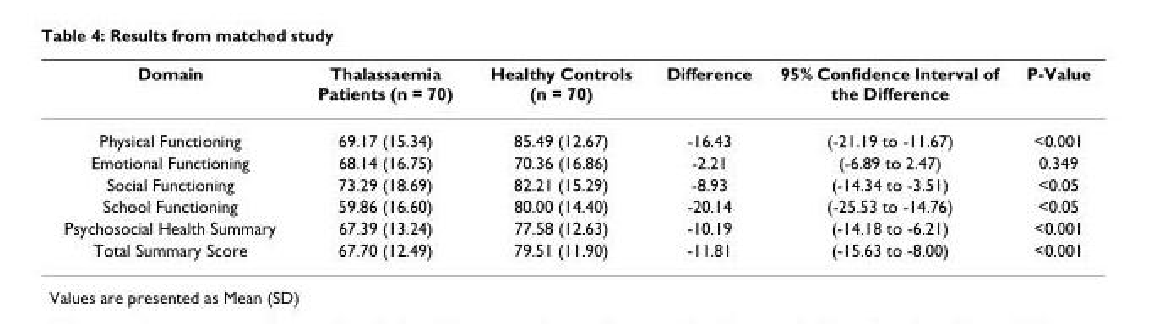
<table><thead><tr><td>Domain</td><td>Thalassaemia Patients (n = 70)</td><td>Healthy Controls (n = 70)</td><td>Difference</td><td>95% Confidence Interval of the Difference</td><td>P-Value</td></tr></thead><tbody><tr><td>Physical Functioning</td><td>69.17 (15.34)</td><td>85.49 (12.67)</td><td>-16.43</td><td>(-21.19 to -11.67)</td><td>&lt;0.001</td></tr><tr><td>Emotional Functioning</td><td>68.14 (16.75)</td><td>70.36 (16.86)</td><td>-2.21</td><td>(-6.89 to 2.47)</td><td>0.349</td></tr><tr><td>Social Functioning</td><td>73.29 (18.69)</td><td>82.21 (15.29)</td><td>-8.93</td><td>(-14.34 to -3.51)</td><td>&lt;0.05</td></tr><tr><td>School Functioning</td><td>59.86 (16.60)</td><td>80.00 (14.40)</td><td>-20.14</td><td>(-25.53 to -14.76)</td><td>&lt;0.05</td></tr><tr><td>Psychosocial Health Summary</td><td>67.39 (13.24)</td><td>77.58 (12.63)</td><td>-10.19</td><td>(-14.18 to -6.21)</td><td>&lt;0.001</td></tr><tr><td>Total Summary Score</td><td>67.70 (12.49)</td><td>79.51 (11.90)</td><td>-11.81</td><td>(-15.63 to -8.00)</td><td>&lt;0.001</td></tr></tbody></table>